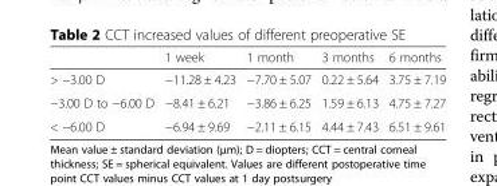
<table><thead><tr><td></td><td>1 week</td><td>1 month</td><td>3 months</td><td>6 months</td></tr></thead><tbody><tr><td>&gt; −3.00 D</td><td>−11.28 ± 4.23</td><td>−7.70 ± 5.07</td><td>0.22 ± 5.64</td><td>3.75 ± 7.19</td></tr><tr><td>−3.00 D to −6.00 D</td><td>−8.41 ± 6.21</td><td>−3.86 ± 6.25</td><td>1.59 ± 6.13</td><td>4.75 ± 7.27</td></tr><tr><td>&lt; −6.00 D</td><td>−6.94 ± 9.69</td><td>−2.11 ± 6.15</td><td>4.44 ± 7.43</td><td>6.51 ± 9.61</td></tr></tbody></table>